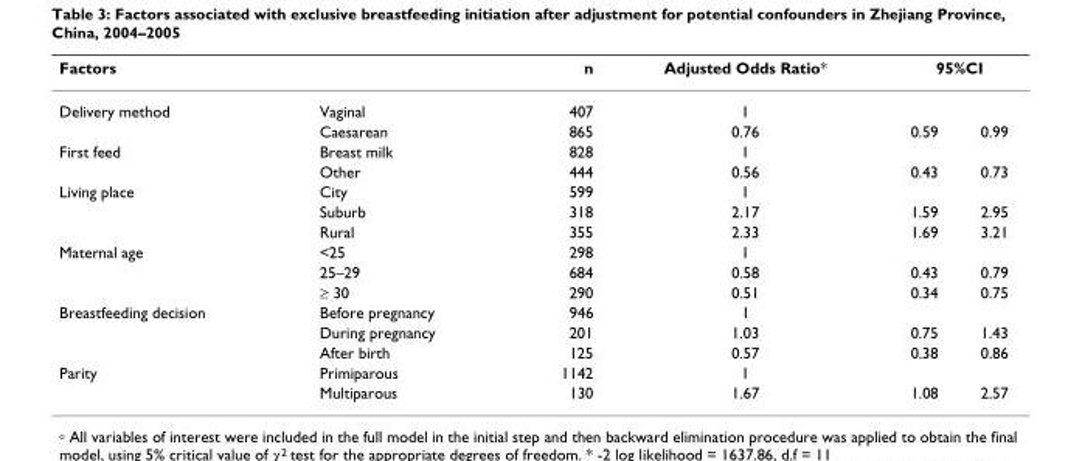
<table><thead><tr><td rowspan="2">Factors Delivery method</td><td rowspan="2">Vaginal</td><td rowspan="2">n 407</td><td rowspan="2">Adjusted Odds Ratio* 1</td><td colspan="2">95%CI</td></tr><tr><td></td><td></td></tr></thead><tbody><tr><td></td><td>Caesarean</td><td>865</td><td>0.76</td><td>0.59</td><td>0.99</td></tr><tr><td rowspan="2">First feed</td><td>Breast milk</td><td>828</td><td>1</td><td></td><td></td></tr><tr><td>Other</td><td>444</td><td>0.56</td><td>0.43</td><td>0.73</td></tr><tr><td rowspan="3">Living place</td><td>City</td><td>599</td><td>1</td><td></td><td></td></tr><tr><td>Suburb</td><td>318</td><td>2.17</td><td>1.59</td><td>2.95</td></tr><tr><td>Rural</td><td>355</td><td>2.33</td><td>1.69</td><td>3.21</td></tr><tr><td rowspan="3">Maternal age</td><td>&lt;25</td><td>298</td><td>1</td><td></td><td></td></tr><tr><td>25–29</td><td>684</td><td>0.58</td><td>0.43</td><td>0.79</td></tr><tr><td>≥ 30</td><td>290</td><td>0.51</td><td>0.34</td><td>0.75</td></tr><tr><td rowspan="3">Breastfeeding decision</td><td>Before pregnancy</td><td>946</td><td>1</td><td></td><td></td></tr><tr><td>During pregnancy</td><td>201</td><td>1.03</td><td>0.75</td><td>1.43</td></tr><tr><td>After birth</td><td>125</td><td>0.57</td><td>0.38</td><td>0.86</td></tr><tr><td rowspan="2">Parity</td><td>Primiparous</td><td>1142</td><td>1</td><td></td><td></td></tr><tr><td>Multiparous</td><td>130</td><td>1.67</td><td>1.08</td><td>2.57</td></tr></tbody></table>